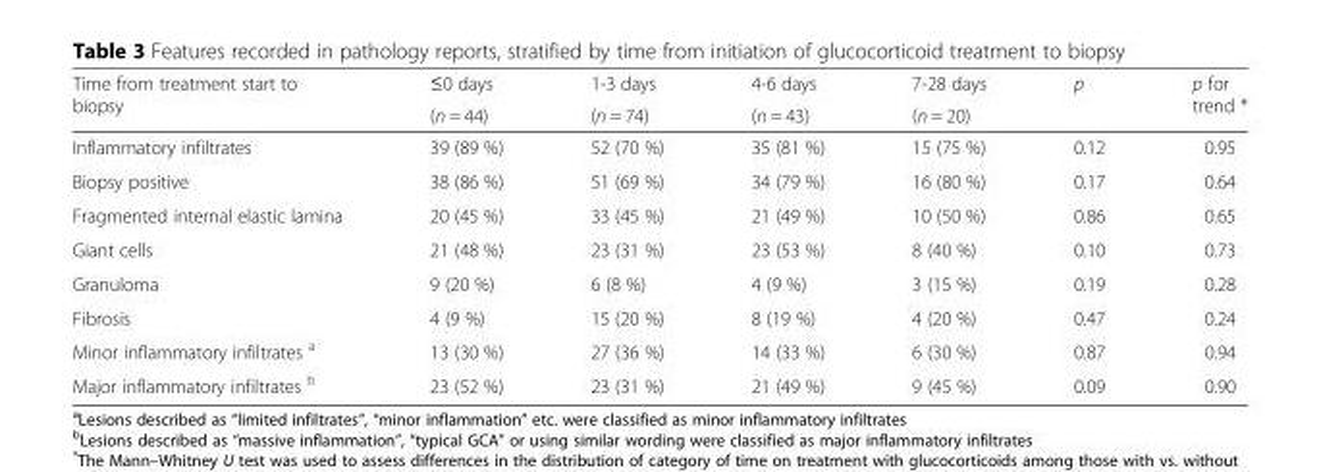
<table><thead><tr><td rowspan="2">Time from treatment start to biopsy</td><td rowspan="2">≤0 days (n = 44)</td><td rowspan="2">1-3 days (n = 74)</td><td rowspan="2">4-6 days (n = 43)</td><td rowspan="2">7-28 days (n = 20)</td><td rowspan="2">p</td><td rowspan="2">p for trend *</td></tr><tr></tr></thead><tbody><tr><td>Inflammatory infiltrates</td><td>39 (89 %)</td><td>52 (70 %)</td><td>35 (81 %)</td><td>15 (75 %)</td><td>0.12</td><td>0.95</td></tr><tr><td>Biopsy positive</td><td>38 (86 %)</td><td>51 (69 %)</td><td>34 (79 %)</td><td>16 (80 %)</td><td>0.17</td><td>0.64</td></tr><tr><td>Fragmented internal elastic lamina</td><td>20 (45 %)</td><td>33 (45 %)</td><td>21 (49 %)</td><td>10 (50 %)</td><td>0.86</td><td>0.65</td></tr><tr><td>Giant cells</td><td>21 (48 %)</td><td>23 (31 %)</td><td>23 (53 %)</td><td>8 (40 %)</td><td>0.10</td><td>0.73</td></tr><tr><td>Granuloma</td><td>9 (20 %)</td><td>6 (8 %)</td><td>4 (9 %)</td><td>3 (15 %)</td><td>0.19</td><td>0.28</td></tr><tr><td>Fibrosis</td><td>4 (9 %)</td><td>15 (20 %)</td><td>8 (19 %)</td><td>4 (20 %)</td><td>0.47</td><td>0.24</td></tr><tr><td>Minor inflammatory infiltrates <sup>a</sup></td><td>13 (30 %)</td><td>27 (36 %)</td><td>14 (33 %)</td><td>6 (30 %)</td><td>0.87</td><td>0.94</td></tr><tr><td>Major inflammatory infiltrates <sup>b</sup></td><td>23 (52 %)</td><td>23 (31 %)</td><td>21 (49 %)</td><td>9 (45 %)</td><td>0.09</td><td>0.90</td></tr></tbody></table>